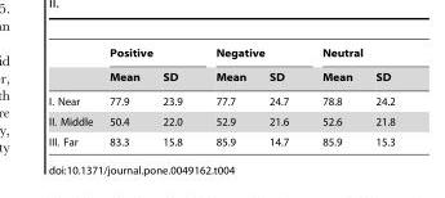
<table><thead><tr><td rowspan="2"></td><td colspan="2">Positive</td><td colspan="2">Negative</td><td colspan="2">Neutral</td></tr><tr><td>Mean</td><td>SD</td><td>Mean</td><td>SD</td><td>Mean</td><td>SD</td></tr></thead><tbody><tr><td>I. Near</td><td>77.9</td><td>23.9</td><td>77.7</td><td>24.7</td><td>78.8</td><td>24.2</td></tr><tr><td>II. Middle</td><td>50.4</td><td>22.0</td><td>52.9</td><td>21.6</td><td>52.6</td><td>21.8</td></tr><tr><td>III. Far</td><td>83.3</td><td>15.8</td><td>85.9</td><td>14.7</td><td>85.9</td><td>15.3</td></tr></tbody></table>